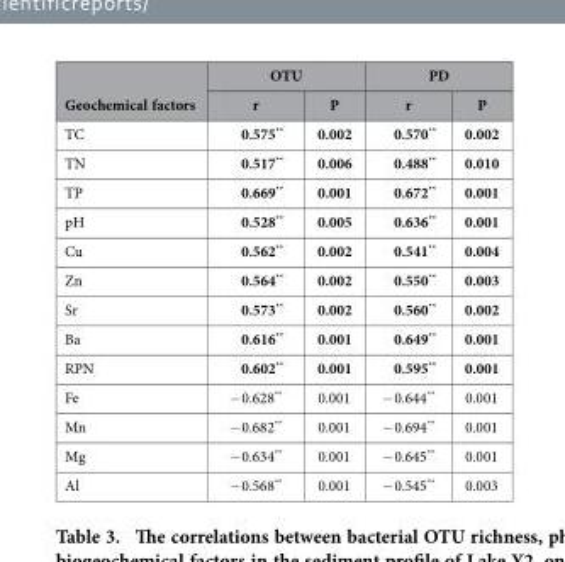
<table><thead><tr><td rowspan="2">Geochemical factors</td><td colspan="2">OTU</td><td colspan="2">PD</td></tr><tr><td>r</td><td>P</td><td>r</td><td>P</td></tr></thead><tbody><tr><td>TC</td><td>0.575**</td><td>0.002</td><td>0.570**</td><td>0.002</td></tr><tr><td>TN</td><td>0.517**</td><td>0.006</td><td>0.488**</td><td>0.010</td></tr><tr><td>TP</td><td>0.669**</td><td>0.001</td><td>0.672**</td><td>0.001</td></tr><tr><td>pH</td><td>0.528**</td><td>0.005</td><td>0.636**</td><td>0.001</td></tr><tr><td>Cu</td><td>0.562**</td><td>0.002</td><td>0.541**</td><td>0.004</td></tr><tr><td>Zn</td><td>0.564**</td><td>0.002</td><td>0.550**</td><td>0.003</td></tr><tr><td>Sr</td><td>0.573**</td><td>0.002</td><td>0.560**</td><td>0.002</td></tr><tr><td>Ba</td><td>0.616**</td><td>0.001</td><td>0.649**</td><td>0.001</td></tr><tr><td>RPN</td><td>0.602**</td><td>0.001</td><td>0.595**</td><td>0.001</td></tr><tr><td>Fe</td><td>− 0.628**</td><td>0.001</td><td>− 0.644**</td><td>0.001</td></tr><tr><td>Mn</td><td>− 0.682**</td><td>0.001</td><td>− 0.694**</td><td>0.001</td></tr><tr><td>Mg</td><td>− 0.634**</td><td>0.001</td><td>− 0.645**</td><td>0.001</td></tr><tr><td>Al</td><td>− 0.568**</td><td>0.001</td><td>− 0.545**</td><td>0.003</td></tr></tbody></table>